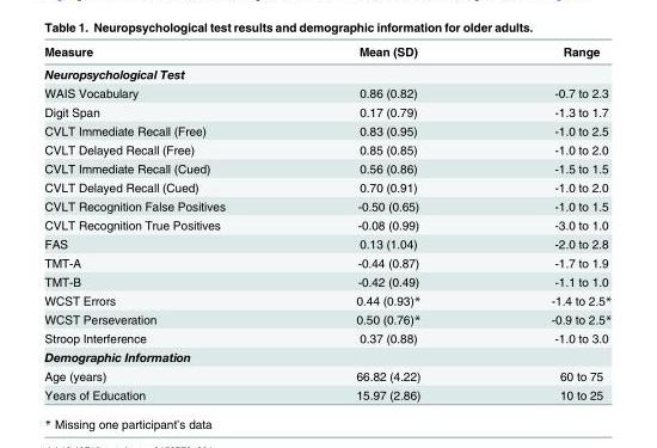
<table><thead><tr><td>Measure</td><td>Mean (SD)</td><td>Range</td></tr></thead><tbody><tr><td colspan="3">Neuropsychological Test</td></tr><tr><td>WAIS Vocabulary</td><td>0.86 (0.82)</td><td>-0.7 to 2.3</td></tr><tr><td>Digit Span</td><td>0.17 (0.79)</td><td>-1.3 to 1.7</td></tr><tr><td>CVLT Immediate Recall (Free)</td><td>0.83 (0.95)</td><td>-1.0 to 2.5</td></tr><tr><td>CVLT Delayed Recall (Free)</td><td>0.85 (0.85)</td><td>-1.0 to 2.0</td></tr><tr><td>CVLT Immediate Recall (Cued)</td><td>0.56 (0.86)</td><td>-1.5 to 1.5</td></tr><tr><td>CVLT Delayed Recall (Cued)</td><td>0.70 (0.91)</td><td>-1.0 to 2.0</td></tr><tr><td>CVLT Recognition False Positives</td><td>-0.50 (0.65)</td><td>-1.0 to 1.5</td></tr><tr><td>CVLT Recognition True Positives</td><td>-0.08 (0.99)</td><td>-3.0 to 1.0</td></tr><tr><td>FAS</td><td>0.13 (1.04)</td><td>-2.0 to 2.8</td></tr><tr><td>TMT-A</td><td>-0.44 (0.87)</td><td>-1.7 to 1.9</td></tr><tr><td>TMT-B</td><td>-0.42 (0.49)</td><td>-1.1 to 1.0</td></tr><tr><td>WCST Errors</td><td>0.44 (0.93)*</td><td>-1.4 to 2.5*</td></tr><tr><td>WCST Perseveration</td><td>0.50 (0.76)*</td><td>-0.9 to 2.5*</td></tr><tr><td>Stroop Interference</td><td>0.37 (0.88)</td><td>-1.0 to 3.0</td></tr><tr><td colspan="3">Demographic Information</td></tr><tr><td>Age (years)</td><td>66.82 (4.22)</td><td>60 to 75</td></tr><tr><td>Years of Education</td><td>15.97 (2.86)</td><td>10 to 25</td></tr></tbody></table>